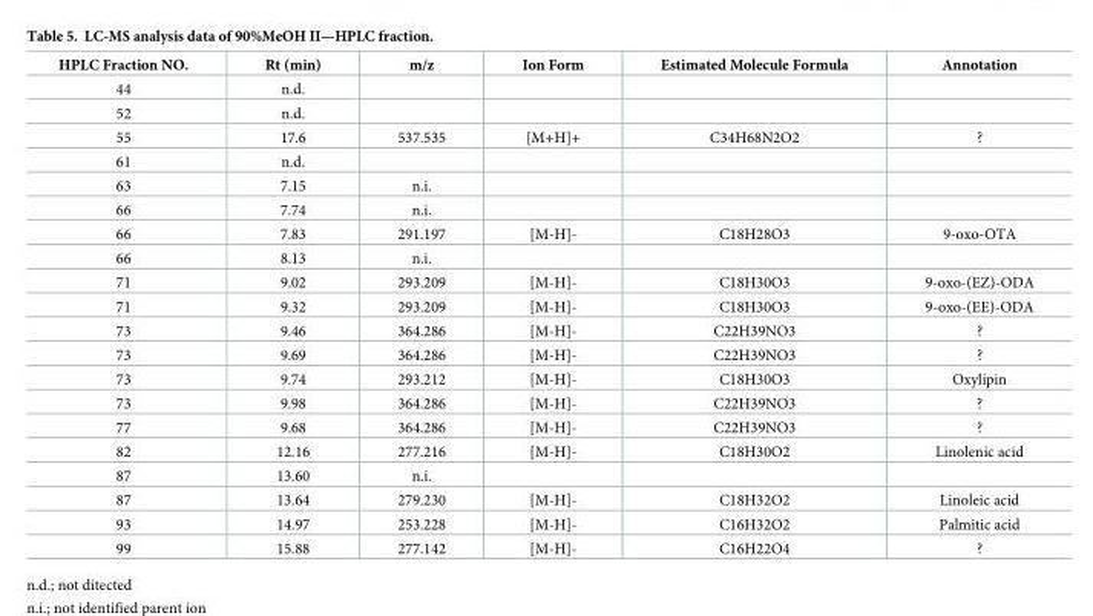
<table><thead><tr><td>HPLC Fraction NO.</td><td>Rt (min)</td><td>m/z</td><td>Ion Form</td><td>Estimated Molecule Formula</td><td>Annotation</td></tr></thead><tbody><tr><td>44</td><td>n.d.</td><td></td><td></td><td></td><td></td></tr><tr><td>52</td><td>n.d.</td><td></td><td></td><td></td><td></td></tr><tr><td>55</td><td>17.6</td><td>537.535</td><td>[M+H]+</td><td>C34H68N2O2</td><td>?</td></tr><tr><td>61</td><td>n.d.</td><td></td><td></td><td></td><td></td></tr><tr><td>63</td><td>7.15</td><td>n.i.</td><td></td><td></td><td></td></tr><tr><td>66</td><td>7.74</td><td>n.i.</td><td></td><td></td><td></td></tr><tr><td>66</td><td>7.83</td><td>291.197</td><td>[M-H]-</td><td>C18H28O3</td><td>9-oxo-OTA</td></tr><tr><td>66</td><td>8.13</td><td>n.i.</td><td></td><td></td><td></td></tr><tr><td>71</td><td>9.02</td><td>293.209</td><td>[M-H]-</td><td>C18H30O3</td><td>9-oxo-(EZ)-ODA</td></tr><tr><td>71</td><td>9.32</td><td>293.209</td><td>[M-H]-</td><td>C18H30O3</td><td>9-oxo-(EE)-ODA</td></tr><tr><td>73</td><td>9.46</td><td>364.286</td><td>[M-H]-</td><td>C22H39NO3</td><td>?</td></tr><tr><td>73</td><td>9.69</td><td>364.286</td><td>[M-H]-</td><td>C22H39NO3</td><td>?</td></tr><tr><td>73</td><td>9.74</td><td>293.212</td><td>[M-H]-</td><td>C18H30O3</td><td>Oxylipin</td></tr><tr><td>73</td><td>9.98</td><td>364.286</td><td>[M-H]-</td><td>C22H39NO3</td><td>?</td></tr><tr><td>77</td><td>9.68</td><td>364.286</td><td>[M-H]-</td><td>C22H39NO3</td><td>?</td></tr><tr><td>82</td><td>12.16</td><td>277.216</td><td>[M-H]-</td><td>C18H30O2</td><td>Linolenic acid</td></tr><tr><td>87</td><td>13.60</td><td>n.i.</td><td></td><td></td><td></td></tr><tr><td>87</td><td>13.64</td><td>279.230</td><td>[M-H]-</td><td>C18H32O2</td><td>Linoleic acid</td></tr><tr><td>93</td><td>14.97</td><td>253.228</td><td>[M-H]-</td><td>C16H32O2</td><td>Palmitic acid</td></tr><tr><td>99</td><td>15.88</td><td>277.142</td><td>[M-H]-</td><td>C16H22O4</td><td>?</td></tr></tbody></table>